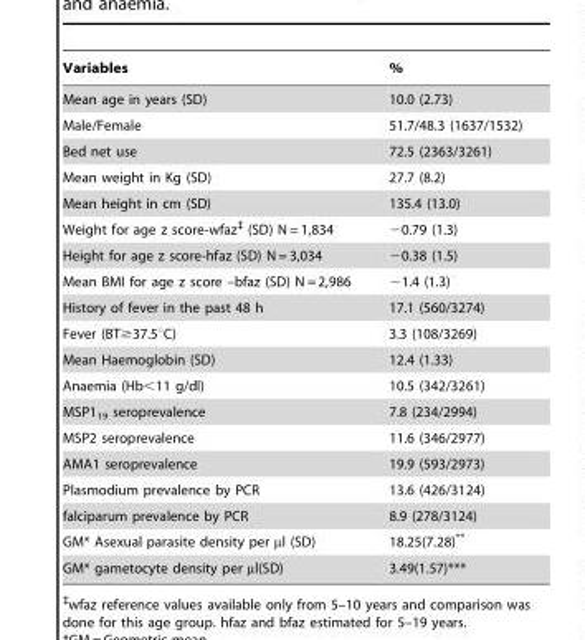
<table><thead><tr><td>Variables</td><td>%</td></tr></thead><tbody><tr><td>Mean age in years (SD)</td><td>10.0 (2.73)</td></tr><tr><td>Male/Female</td><td>51.7/48.3 (1637/1532)</td></tr><tr><td>Bed net use</td><td>72.5 (2363/3261)</td></tr><tr><td>Mean weight in Kg (SD)</td><td>27.7 (8.2)</td></tr><tr><td>Mean height in cm (SD)</td><td>135.4 (13.0)</td></tr><tr><td>Weight for age z score-wfaz‡ (SD) N = 1,834</td><td>−0.79 (1.3)</td></tr><tr><td>Height for age z score-hfaz (SD) N = 3,034</td><td>−0.38 (1.5)</td></tr><tr><td>Mean BMI for age z score –bfaz (SD) N = 2,986</td><td>−1.4 (1.3)</td></tr><tr><td>History of fever in the past 48 h</td><td>17.1 (560/3274)</td></tr><tr><td>Fever (BT≥37.5°C)</td><td>3.3 (108/3269)</td></tr><tr><td>Mean Haemoglobin (SD)</td><td>12.4 (1.33)</td></tr><tr><td>Anaemia (Hb&lt;11 g/dl)</td><td>10.5 (342/3261)</td></tr><tr><td>MSP1<sub>19</sub> seroprevalence</td><td>7.8 (234/2994)</td></tr><tr><td>MSP2 seroprevalence</td><td>11.6 (346/2977)</td></tr><tr><td>AMA1 seroprevalence</td><td>19.9 (593/2973)</td></tr><tr><td>Plasmodium prevalence by PCR</td><td>13.6 (426/3124)</td></tr><tr><td>falciparum prevalence by PCR</td><td>8.9 (278/3124)</td></tr><tr><td>GM* Asexual parasite density per µl (SD)</td><td>18.25(7.28)**</td></tr><tr><td>GM* gametocyte density per µl(SD)</td><td>3.49(1.57)***</td></tr></tbody></table>